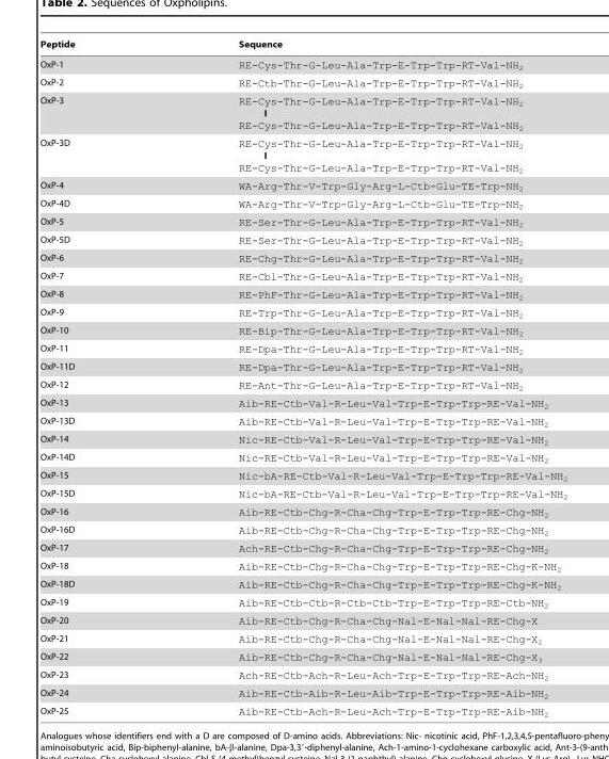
<table><thead><tr><td>Peptide</td><td>Sequence</td></tr></thead><tbody><tr><td>OxP-1</td><td>RE-Cys-Thr-G-Leu-Ala-Trp-E-Trp-Trp-RT-Val-NH<sub>2</sub></td></tr><tr><td>OxP-2</td><td>RE-Ctb-Thr-G-Leu-Ala-Trp-E-Trp-Trp-RT-Val-NH<sub>2</sub></td></tr><tr><td>OxP-3</td><td>RE-Cys-Thr-G-Leu-Ala-Trp-E-Trp-Trp-RT-Val-NH<sub>2</sub> I RE-Cys-Thr-G-Leu-Ala-Trp-E-Trp-Trp-RT-Val-NH<sub>2</sub></td></tr><tr><td>OxP-3D</td><td>RE-Cys-Thr-G-Leu-Ala-Trp-E-Trp-Trp-RT-Val-NH<sub>2</sub> I RE-Cys-Thr-G-Leu-Ala-Trp-E-Trp-Trp-RT-Val-NH<sub>2</sub></td></tr><tr><td>OxP-4</td><td>WA-Arg-Thr-V-Trp-Gly-Arg-L-Ctb-Glu-TE-Trp-NH<sub>2</sub></td></tr><tr><td>OxP-4D</td><td>WA-Arg-Thr-V-Trp-Gly-Arg-L-Ctb-Glu-TE-Trp-NH<sub>2</sub></td></tr><tr><td>OxP-5</td><td>RE-Ser-Thr-G-Leu-Ala-Trp-E-Trp-Trp-RT-Val-NH<sub>2</sub></td></tr><tr><td>OxP-5D</td><td>RE-Ser-Thr-G-Leu-Ala-Trp-E-Trp-Trp-RT-Val-NH<sub>2</sub></td></tr><tr><td>OxP-6</td><td>RE-Chg-Thr-G-Leu-Ala-Trp-E-Trp-Trp-RT-Val-NH<sub>2</sub></td></tr><tr><td>OxP-7</td><td>RE-Cbl-Thr-G-Leu-Ala-Trp-E-Trp-Trp-RT-Val-NH<sub>2</sub></td></tr><tr><td>OxP-8</td><td>RE-PhF-Thr-G-Leu-Ala-Trp-E-Trp-Trp-RT-Val-NH<sub>2</sub></td></tr><tr><td>OxP-9</td><td>RE-Trp-Thr-G-Leu-Ala-Trp-E-Trp-Trp-RT-Val-NH<sub>2</sub></td></tr><tr><td>OxP-10</td><td>RE-Bip-Thr-G-Leu-Ala-Trp-E-Trp-Trp-RT-Val-NH<sub>2</sub></td></tr><tr><td>OxP-11</td><td>RE-Dpa-Thr-G-Leu-Ala-Trp-E-Trp-Trp-RT-Val-NH<sub>2</sub></td></tr><tr><td>OxP-11D</td><td>RE-Dpa-Thr-G-Leu-Ala-Trp-E-Trp-Trp-RT-Val-NH<sub>2</sub></td></tr><tr><td>OxP-12</td><td>RE-Ant-Thr-G-Leu-Ala-Trp-E-Trp-Trp-RT-Val-NH<sub>2</sub></td></tr><tr><td>OxP-13</td><td>Aib-RE-Ctb-Val-R-Leu-Val-Trp-E-Trp-Trp-RE-Val-NH<sub>2</sub></td></tr><tr><td>OxP-13D</td><td>Aib-RE-Ctb-Val-R-Leu-Val-Trp-E-Trp-Trp-RE-Val-NH<sub>2</sub></td></tr><tr><td>OxP-14</td><td>Nic-RE-Ctb-Val-R-Leu-Val-Trp-E-Trp-Trp-RE-Val-NH<sub>2</sub></td></tr><tr><td>OxP-14D</td><td>Nic-RE-Ctb-Val-R-Leu-Val-Trp-E-Trp-Trp-RE-Val-NH<sub>2</sub></td></tr><tr><td>OxP-15</td><td>Nic-bA-RE-Ctb-Val-R-Leu-Val-Trp-E-Trp-Trp-RE-Val-NH<sub>2</sub></td></tr><tr><td>OxP-15D</td><td>Nic-bA-RE-Ctb-Val-R-Leu-Val-Trp-E-Trp-Trp-RE-Val-NH<sub>2</sub></td></tr><tr><td>OxP-16</td><td>Aib-RE-Ctb-Chg-R-Cha-Chg-Trp-E-Trp-Trp-RE-Chg-NH<sub>2</sub></td></tr><tr><td>OxP-16D</td><td>Aib-RE-Ctb-Chg-R-Cha-Chg-Trp-E-Trp-Trp-RE-Chg-NH<sub>2</sub></td></tr><tr><td>OxP-17</td><td>Ach-RE-Ctb-Chg-R-Cha-Chg-Trp-E-Trp-Trp-RE-Chg-NH<sub>2</sub></td></tr><tr><td>OxP-18</td><td>Aib-RE-Ctb-Chg-R-Cha-Chg-Trp-E-Trp-Trp-RE-Chg-K-NH<sub>2</sub></td></tr><tr><td>OxP-18D</td><td>Aib-RE-Ctb-Chg-R-Cha-Chg-Trp-E-Trp-Trp-RE-Chg-K-NH<sub>2</sub></td></tr><tr><td>OxP-19</td><td>Aib-RE-Ctb-Ctb-R-Ctb-Ctb-Trp-E-Trp-Trp-RE-Ctb-NH<sub>2</sub></td></tr><tr><td>OxP-20</td><td>Aib-RE-Ctb-Chg-R-Cha-Chg-Nal-E-Nal-Nal-RE-Chg-X</td></tr><tr><td>OxP-21</td><td>Aib-RE-Ctb-Chg-R-Cha-Chg-Nal-E-Nal-Nal-RE-Chg-X<sub>2</sub></td></tr><tr><td>OxP-22</td><td>Aib-RE-Ctb-Chg-R-Cha-Chg-Nal-E-Nal-Nal-RE-Chg-X<sub>3</sub></td></tr><tr><td>OxP-23</td><td>Ach-RE-Ctb-Ach-R-Leu-Ach-Trp-E-Trp-Trp-RE-Ach-NH<sub>2</sub></td></tr><tr><td>OxP-24</td><td>Aib-RE-Ctb-Aib-R-Leu-Aib-Trp-E-Trp-Trp-RE-Aib-NH<sub>2</sub></td></tr><tr><td>OxP-25</td><td>Aib-RE-Ctb-Ach-R-Leu-Ach-Trp-E-Trp-Trp-RE-Aib-NH<sub>2</sub></td></tr></tbody></table>